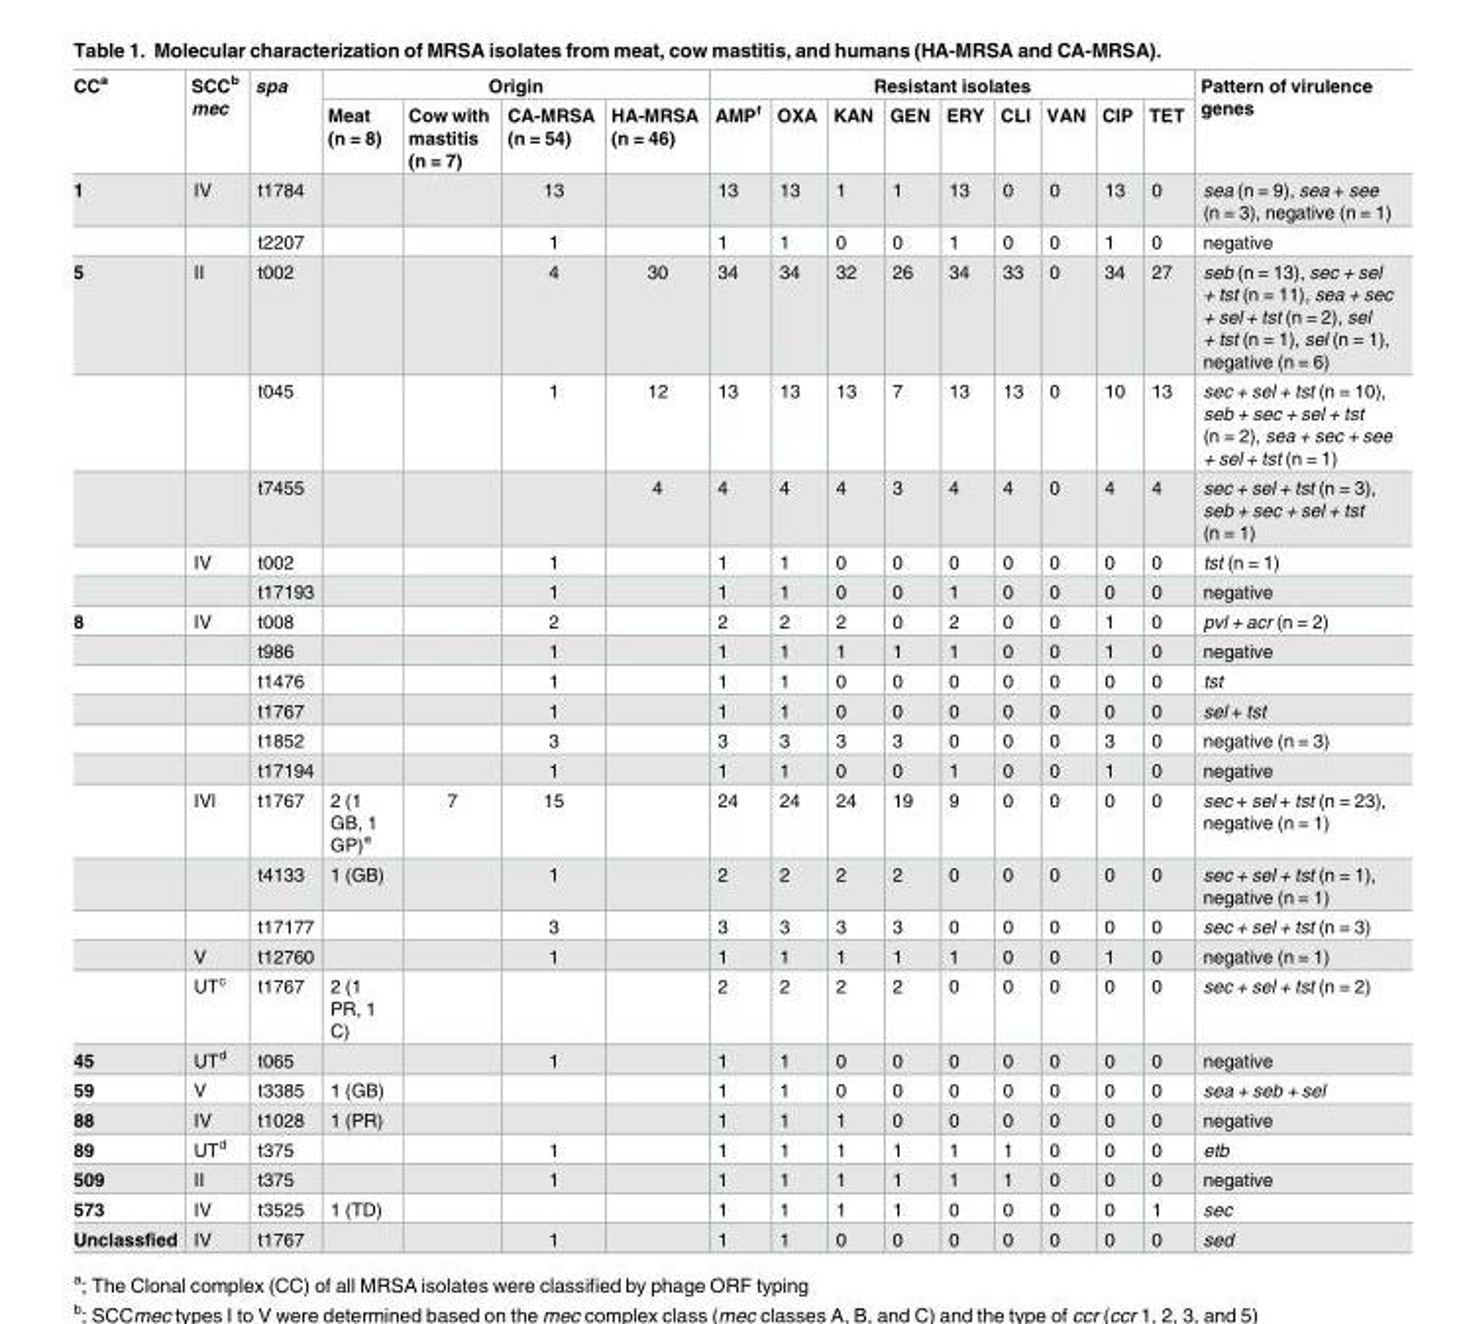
<table><thead><tr><td rowspan="2">CC<sup>a</sup></td><td rowspan="2">SCC<sup>b</sup> mec</td><td rowspan="2">spa</td><td colspan="4">Origin</td><td colspan="9">Resistant isolates</td><td rowspan="2">Pattern of virulence genes</td></tr><tr><td>Meat (n = 8)</td><td>Cow with mastitis (n = 7)</td><td>CA-MRSA (n = 54)</td><td>HA-MRSA (n = 46)</td><td>AMP<sup>f</sup></td><td>OXA</td><td>KAN</td><td>GEN</td><td>ERY</td><td>CLI</td><td>VAN</td><td>CIP</td><td>TET</td></tr></thead><tbody><tr><td rowspan="2">1</td><td>IV</td><td>t1784</td><td></td><td></td><td>13</td><td></td><td>13</td><td>13</td><td>1</td><td>1</td><td>13</td><td>0</td><td>0</td><td>13</td><td>0</td><td>sea (n = 9), sea + see (n = 3), negative (n = 1)</td></tr><tr><td></td><td>t2207</td><td></td><td></td><td>1</td><td></td><td>1</td><td>1</td><td>0</td><td>0</td><td>1</td><td>0</td><td>0</td><td>1</td><td>0</td><td>negative</td></tr><tr><td rowspan="5">5</td><td>II</td><td>t002</td><td></td><td></td><td>4</td><td>30</td><td>34</td><td>34</td><td>32</td><td>26</td><td>34</td><td>33</td><td>0</td><td>34</td><td>27</td><td>seb (n = 13), sec + sel + tst (n = 11), sea + sec + sel + tst (n = 2), sel + tst (n = 1), sel (n = 1), negative (n = 6)</td></tr><tr><td></td><td>t045</td><td></td><td></td><td>1</td><td>12</td><td>13</td><td>13</td><td>13</td><td>7</td><td>13</td><td>13</td><td>0</td><td>10</td><td>13</td><td>sec + sel + tst (n = 10), seb + sec + sel + tst (n = 2), sea + sec + see + sel + tst (n = 1)</td></tr><tr><td></td><td>t7455</td><td></td><td></td><td></td><td>4</td><td>4</td><td>4</td><td>4</td><td>3</td><td>4</td><td>4</td><td>0</td><td>4</td><td>4</td><td>sec + sel + tst (n = 3), seb + sec + sel + tst (n = 1)</td></tr><tr><td>IV</td><td>t002</td><td></td><td></td><td>1</td><td></td><td>1</td><td>1</td><td>0</td><td>0</td><td>0</td><td>0</td><td>0</td><td>0</td><td>0</td><td>tst (n = 1)</td></tr><tr><td></td><td>t17193</td><td></td><td></td><td>1</td><td></td><td>1</td><td>1</td><td>0</td><td>0</td><td>1</td><td>0</td><td>0</td><td>0</td><td>0</td><td>negative</td></tr><tr><td rowspan="11">8</td><td>IV</td><td>t008</td><td></td><td></td><td>2</td><td></td><td>2</td><td>2</td><td>2</td><td>0</td><td>2</td><td>0</td><td>0</td><td>1</td><td>0</td><td>pvl + acr (n = 2)</td></tr><tr><td></td><td>t986</td><td></td><td></td><td>1</td><td></td><td>1</td><td>1</td><td>1</td><td>1</td><td>1</td><td>0</td><td>0</td><td>1</td><td>0</td><td>negative</td></tr><tr><td></td><td>t1476</td><td></td><td></td><td>1</td><td></td><td>1</td><td>1</td><td>0</td><td>0</td><td>0</td><td>0</td><td>0</td><td>0</td><td>0</td><td>tst</td></tr><tr><td></td><td>t1767</td><td></td><td></td><td>1</td><td></td><td>1</td><td>1</td><td>0</td><td>0</td><td>0</td><td>0</td><td>0</td><td>0</td><td>0</td><td>sel + tst</td></tr><tr><td></td><td>t1852</td><td></td><td></td><td>3</td><td></td><td>3</td><td>3</td><td>3</td><td>3</td><td>0</td><td>0</td><td>0</td><td>3</td><td>0</td><td>negative (n = 3)</td></tr><tr><td></td><td>t17194</td><td></td><td></td><td>1</td><td></td><td>1</td><td>1</td><td>0</td><td>0</td><td>1</td><td>0</td><td>0</td><td>1</td><td>0</td><td>negative</td></tr><tr><td>IVl</td><td>t1767</td><td>2 (1 GB, 1 GP)<sup>e</sup></td><td>7</td><td>15</td><td></td><td>24</td><td>24</td><td>24</td><td>19</td><td>9</td><td>0</td><td>0</td><td>0</td><td>0</td><td>sec + sel + tst (n = 23), negative (n = 1)</td></tr><tr><td></td><td>t4133</td><td>1 (GB)</td><td></td><td>1</td><td></td><td>2</td><td>2</td><td>2</td><td>2</td><td>0</td><td>0</td><td>0</td><td>0</td><td>0</td><td>sec + sel + tst (n = 1), negative (n = 1)</td></tr><tr><td></td><td>t17177</td><td></td><td></td><td>3</td><td></td><td>3</td><td>3</td><td>3</td><td>3</td><td>0</td><td>0</td><td>0</td><td>0</td><td>0</td><td>sec + sel + tst (n = 3)</td></tr><tr><td>V</td><td>t12760</td><td></td><td></td><td>1</td><td></td><td>1</td><td>1</td><td>1</td><td>1</td><td>1</td><td>0</td><td>0</td><td>1</td><td>0</td><td>negative (n = 1)</td></tr><tr><td>UT<sup>c</sup></td><td>t1767</td><td>2 (1 PR, 1 C)</td><td></td><td></td><td></td><td>2</td><td>2</td><td>2</td><td>2</td><td>0</td><td>0</td><td>0</td><td>0</td><td>0</td><td>sec + sel + tst (n = 2)</td></tr><tr><td>45</td><td>UT<sup>d</sup></td><td>t065</td><td></td><td></td><td>1</td><td></td><td>1</td><td>1</td><td>0</td><td>0</td><td>0</td><td>0</td><td>0</td><td>0</td><td>0</td><td>negative</td></tr><tr><td>59</td><td>V</td><td>t3385</td><td>1 (GB)</td><td></td><td></td><td></td><td>1</td><td>1</td><td>0</td><td>0</td><td>0</td><td>0</td><td>0</td><td>0</td><td>0</td><td>sea + seb + sel</td></tr><tr><td>88</td><td>IV</td><td>t1028</td><td>1 (PR)</td><td></td><td></td><td></td><td>1</td><td>1</td><td>1</td><td>0</td><td>0</td><td>0</td><td>0</td><td>0</td><td>0</td><td>negative</td></tr><tr><td>89</td><td>UT<sup>d</sup></td><td>t375</td><td></td><td></td><td>1</td><td></td><td>1</td><td>1</td><td>1</td><td>1</td><td>1</td><td>1</td><td>0</td><td>0</td><td>0</td><td>etb</td></tr><tr><td>509</td><td>II</td><td>t375</td><td></td><td></td><td>1</td><td></td><td>1</td><td>1</td><td>1</td><td>1</td><td>1</td><td>1</td><td>0</td><td>0</td><td>0</td><td>negative</td></tr><tr><td>573</td><td>IV</td><td>t3525</td><td>1 (TD)</td><td></td><td></td><td></td><td>1</td><td>1</td><td>1</td><td>1</td><td>0</td><td>0</td><td>0</td><td>0</td><td>1</td><td>sec</td></tr><tr><td>Unclassfied</td><td>IV</td><td>t1767</td><td></td><td></td><td>1</td><td></td><td>1</td><td>1</td><td>0</td><td>0</td><td>0</td><td>0</td><td>0</td><td>0</td><td>0</td><td>sed</td></tr></tbody></table>